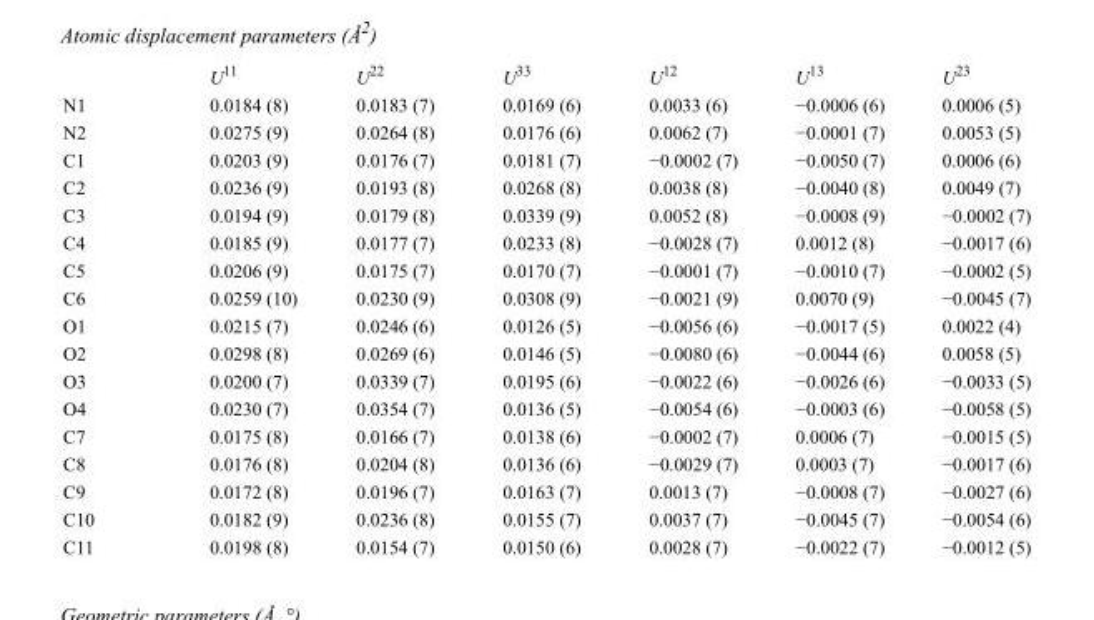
<table><thead><tr><td></td><td>U<sup>11</sup></td><td>U<sup>22</sup></td><td>U<sup>33</sup></td><td>U<sup>12</sup></td><td>U<sup>13</sup></td><td>U<sup>23</sup></td></tr></thead><tbody><tr><td>N1</td><td>0.0184 (8)</td><td>0.0183 (7)</td><td>0.0169 (6)</td><td>0.0033 (6)</td><td>−0.0006 (6)</td><td>0.0006 (5)</td></tr><tr><td>N2</td><td>0.0275 (9)</td><td>0.0264 (8)</td><td>0.0176 (6)</td><td>0.0062 (7)</td><td>−0.0001 (7)</td><td>0.0053 (5)</td></tr><tr><td>C1</td><td>0.0203 (9)</td><td>0.0176 (7)</td><td>0.0181 (7)</td><td>−0.0002 (7)</td><td>−0.0050 (7)</td><td>0.0006 (6)</td></tr><tr><td>C2</td><td>0.0236 (9)</td><td>0.0193 (8)</td><td>0.0268 (8)</td><td>0.0038 (8)</td><td>−0.0040 (8)</td><td>0.0049 (7)</td></tr><tr><td>C3</td><td>0.0194 (9)</td><td>0.0179 (8)</td><td>0.0339 (9)</td><td>0.0052 (8)</td><td>−0.0008 (9)</td><td>−0.0002 (7)</td></tr><tr><td>C4</td><td>0.0185 (9)</td><td>0.0177 (7)</td><td>0.0233 (8)</td><td>−0.0028 (7)</td><td>0.0012 (8)</td><td>−0.0017 (6)</td></tr><tr><td>C5</td><td>0.0206 (9)</td><td>0.0175 (7)</td><td>0.0170 (7)</td><td>−0.0001 (7)</td><td>−0.0010 (7)</td><td>−0.0002 (5)</td></tr><tr><td>C6</td><td>0.0259 (10)</td><td>0.0230 (9)</td><td>0.0308 (9)</td><td>−0.0021 (9)</td><td>0.0070 (9)</td><td>−0.0045 (7)</td></tr><tr><td>O1</td><td>0.0215 (7)</td><td>0.0246 (6)</td><td>0.0126 (5)</td><td>−0.0056 (6)</td><td>−0.0017 (5)</td><td>0.0022 (4)</td></tr><tr><td>O2</td><td>0.0298 (8)</td><td>0.0269 (6)</td><td>0.0146 (5)</td><td>−0.0080 (6)</td><td>−0.0044 (6)</td><td>0.0058 (5)</td></tr><tr><td>O3</td><td>0.0200 (7)</td><td>0.0339 (7)</td><td>0.0195 (6)</td><td>−0.0022 (6)</td><td>−0.0026 (6)</td><td>−0.0033 (5)</td></tr><tr><td>O4</td><td>0.0230 (7)</td><td>0.0354 (7)</td><td>0.0136 (5)</td><td>−0.0054 (6)</td><td>−0.0003 (6)</td><td>−0.0058 (5)</td></tr><tr><td>C7</td><td>0.0175 (8)</td><td>0.0166 (7)</td><td>0.0138 (6)</td><td>−0.0002 (7)</td><td>0.0006 (7)</td><td>−0.0015 (5)</td></tr><tr><td>C8</td><td>0.0176 (8)</td><td>0.0204 (8)</td><td>0.0136 (6)</td><td>−0.0029 (7)</td><td>0.0003 (7)</td><td>−0.0017 (6)</td></tr><tr><td>C9</td><td>0.0172 (8)</td><td>0.0196 (7)</td><td>0.0163 (7)</td><td>0.0013 (7)</td><td>−0.0008 (7)</td><td>−0.0027 (6)</td></tr><tr><td>C10</td><td>0.0182 (9)</td><td>0.0236 (8)</td><td>0.0155 (7)</td><td>0.0037 (7)</td><td>−0.0045 (7)</td><td>−0.0054 (6)</td></tr><tr><td>C11</td><td>0.0198 (8)</td><td>0.0154 (7)</td><td>0.0150 (6)</td><td>0.0028 (7)</td><td>−0.0022 (7)</td><td>−0.0012 (5)</td></tr></tbody></table>